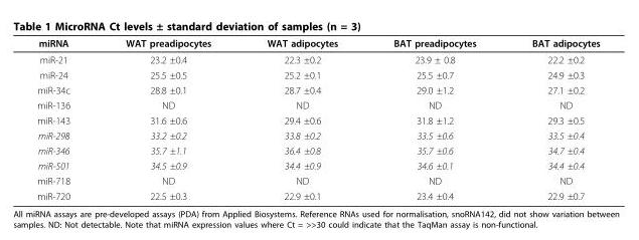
<table><thead><tr><td>miRNA</td><td>WAT preadipocytes</td><td>WAT adipocytes</td><td>BAT preadipocytes</td><td>BAT adipocytes</td></tr></thead><tbody><tr><td>miR-21</td><td>23.2 ±0.4</td><td>22.3 ±0.2</td><td>23.9 ± 0.8</td><td>22.2 ±0.2</td></tr><tr><td>miR-24</td><td>25.5 ±0.5</td><td>25.2 ±0.1</td><td>25.5 ±0.7</td><td>24.9 ±0.3</td></tr><tr><td>miR-34c</td><td>28.8 ±0.1</td><td>28.7 ±0.4</td><td>29.0 ±1.2</td><td>27.1 ±0.2</td></tr><tr><td>miR-136</td><td>ND</td><td>ND</td><td>ND</td><td>ND</td></tr><tr><td>miR-143</td><td>31.6 ±0.6</td><td>29.4 ±0.6</td><td>31.8 ±1.2</td><td>29.3 ±0.5</td></tr><tr><td>miR-298</td><td>33.2 ±0.2</td><td>33.8 ±0.2</td><td>33.5 ±0.6</td><td>33.5 ±0.4</td></tr><tr><td>miR-346</td><td>35.7 ±1.1</td><td>36.4 ±0.8</td><td>35.7 ±0.6</td><td>34.7 ±0.4</td></tr><tr><td>miR-501</td><td>34.5 ±0.9</td><td>34.4 ±0.9</td><td>34.6 ±0.1</td><td>34.4 ±0.4</td></tr><tr><td>miR-718</td><td>ND</td><td>ND</td><td>ND</td><td>ND</td></tr><tr><td>miR-720</td><td>22.5 ±0.3</td><td>22.9 ±0.1</td><td>23.4 ±0.4</td><td>22.9 ±0.7</td></tr></tbody></table>